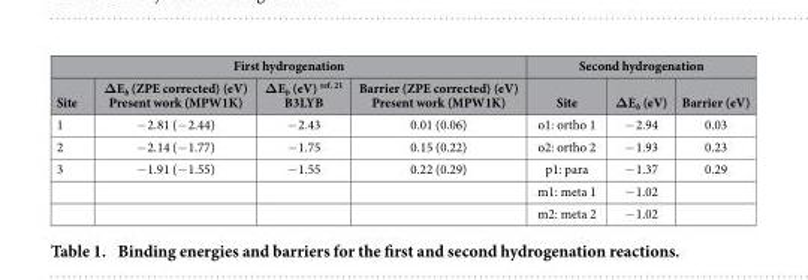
<table><thead><tr><td colspan="4">First hydrogenation</td><td colspan="3">Second hydrogenation</td></tr><tr><td>Site</td><td>ΔE<sub>b</sub> (ZPE corrected) (eV) Present work (MPW1K)</td><td>ΔE<sub>b</sub> (eV) ref. <sup>21</sup> B3LYB</td><td>Barrier (ZPE corrected) (eV) Present work (MPW1K)</td><td>Site</td><td>ΔE<sub>b</sub> (eV)</td><td>Barrier (eV)</td></tr></thead><tbody><tr><td>1</td><td>− 2.81 (− 2.44)</td><td>− 2.43</td><td>0.01 (0.06)</td><td>o1: ortho 1</td><td>− 2.94</td><td>0.03</td></tr><tr><td>2</td><td>− 2.14 (− 1.77)</td><td>− 1.75</td><td>0.15 (0.22)</td><td>o2: ortho 2</td><td>− 1.93</td><td>0.23</td></tr><tr><td rowspan="3">3</td><td>− 1.91 (− 1.55)</td><td>− 1.55</td><td>0.22 (0.29)</td><td>p1: para</td><td>− 1.37</td><td>0.29</td></tr><tr><td></td><td></td><td></td><td>m1: meta 1</td><td>− 1.02</td><td></td></tr><tr><td></td><td></td><td></td><td>m2: meta 2</td><td>− 1.02</td><td></td></tr></tbody></table>